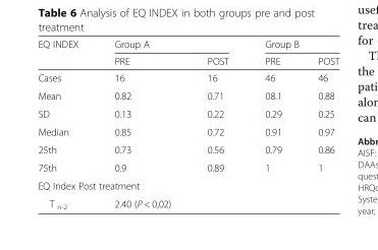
<table><thead><tr><td rowspan="2">EQ INDEX</td><td colspan="2">Group A</td><td colspan="2">Group B</td></tr><tr><td>PRE</td><td>POST</td><td>PRE</td><td>POST</td></tr></thead><tbody><tr><td>Cases</td><td>16</td><td>16</td><td>46</td><td>46</td></tr><tr><td>Mean</td><td>0.82</td><td>0.71</td><td>08.1</td><td>0.88</td></tr><tr><td>SD</td><td>0.13</td><td>0.22</td><td>0.29</td><td>0.25</td></tr><tr><td>Median</td><td>0.85</td><td>0.72</td><td>0.91</td><td>0.97</td></tr><tr><td>25th</td><td>0.73</td><td>0.56</td><td>0.79</td><td>0.86</td></tr><tr><td>75th</td><td>0.9</td><td>0.89</td><td>1</td><td>1</td></tr><tr><td colspan="5">EQ Index Post treatment</td></tr><tr><td>T <sub>n-2</sub></td><td>2.40 (P &lt; 0,02)</td><td></td><td></td><td></td></tr></tbody></table>